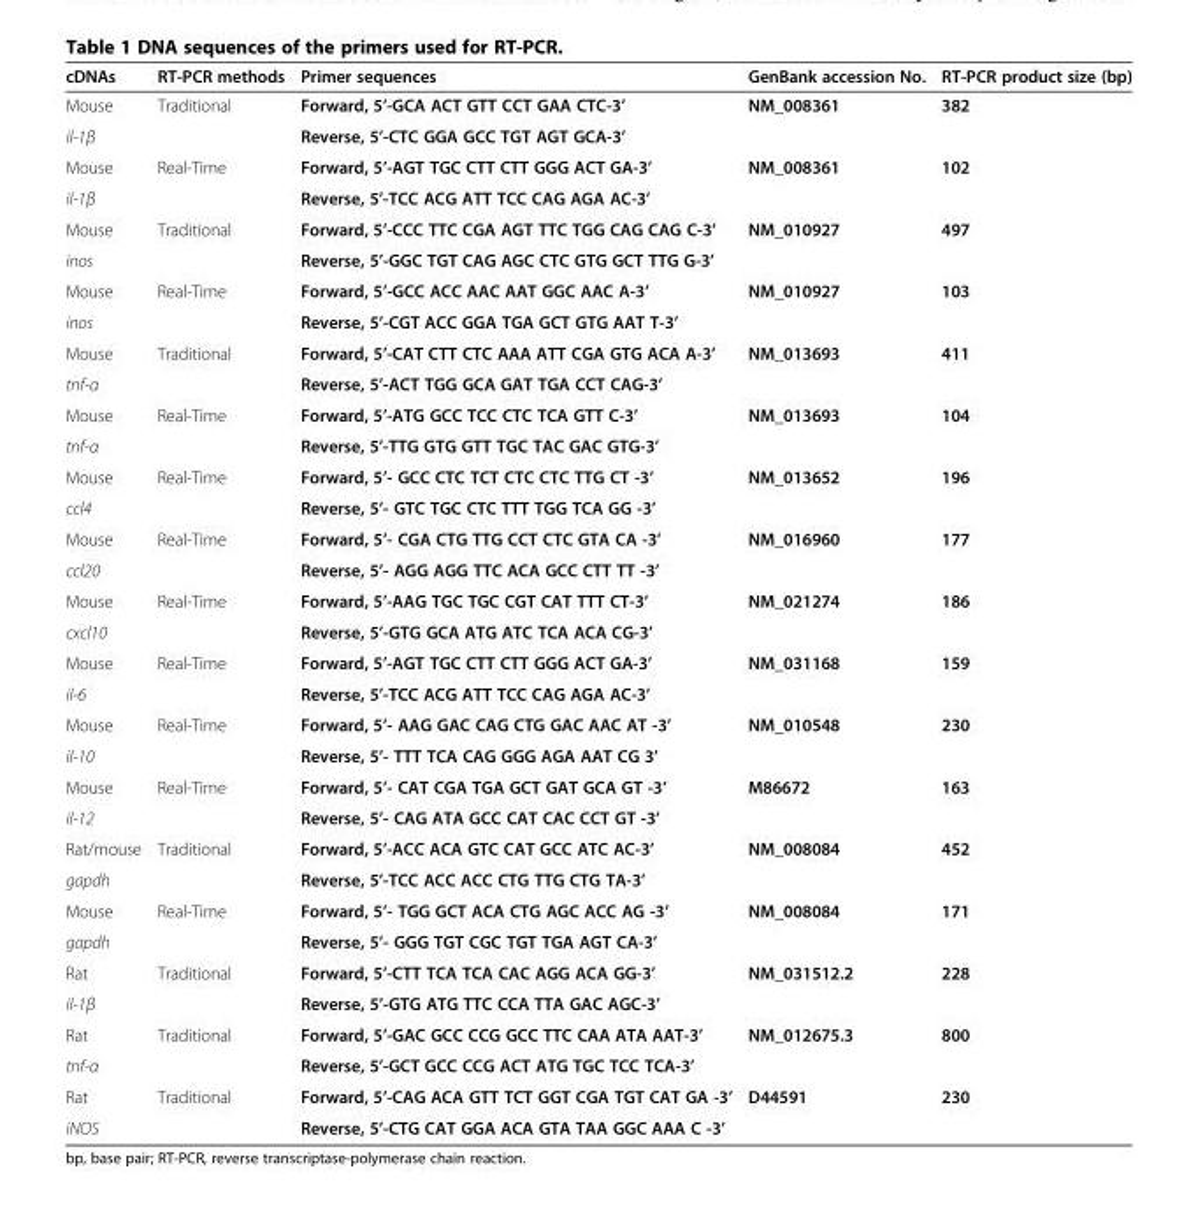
<table><thead><tr><td>cDNAs</td><td>RT-PCR methods</td><td>Primer sequences</td><td>GenBank accession No.</td><td>RT-PCR product size (bp)</td></tr></thead><tbody><tr><td>Mouse</td><td>Traditional</td><td>Forward, 5’-GCA ACT GTT CCT GAA CTC-3’</td><td>NM_008361</td><td>382</td></tr><tr><td>il-1β</td><td></td><td>Reverse, 5’-CTC GGA GCC TGT AGT GCA-3’</td><td></td><td></td></tr><tr><td>Mouse</td><td>Real-Time</td><td>Forward, 5’-AGT TGC CTT CTT GGG ACT GA-3’</td><td>NM_008361</td><td>102</td></tr><tr><td>il-1β</td><td></td><td>Reverse, 5’-TCC ACG ATT TCC CAG AGA AC-3’</td><td></td><td></td></tr><tr><td>Mouse</td><td>Traditional</td><td>Forward, 5’-CCC TTC CGA AGT TTC TGG CAG CAG C-3’</td><td>NM_010927</td><td>497</td></tr><tr><td>inos</td><td></td><td>Reverse, 5’-GGC TGT CAG AGC CTC GTG GCT TTG G-3’</td><td></td><td></td></tr><tr><td>Mouse</td><td>Real-Time</td><td>Forward, 5’-GCC ACC AAC AAT GGC AAC A-3’</td><td>NM_010927</td><td>103</td></tr><tr><td>inos</td><td></td><td>Reverse, 5’-CGT ACC GGA TGA GCT GTG AAT T-3’</td><td></td><td></td></tr><tr><td>Mouse</td><td>Traditional</td><td>Forward, 5’-CAT CTT CTC AAA ATT CGA GTG ACA A-3’</td><td>NM_013693</td><td>411</td></tr><tr><td>tnf-α</td><td></td><td>Reverse, 5’-ACT TGG GCA GAT TGA CCT CAG-3’</td><td></td><td></td></tr><tr><td>Mouse</td><td>Real-Time</td><td>Forward, 5’-ATG GCC TCC CTC TCA GTT C-3’</td><td>NM_013693</td><td>104</td></tr><tr><td>tnf-α</td><td></td><td>Reverse, 5’-TTG GTG GTT TGC TAC GAC GTG-3’</td><td></td><td></td></tr><tr><td>Mouse</td><td>Real-Time</td><td>Forward, 5’- GCC CTC TCT CTC CTC TTG CT -3’</td><td>NM_013652</td><td>196</td></tr><tr><td>ccl4</td><td></td><td>Reverse, 5’- GTC TGC CTC TTT TGG TCA GG -3’</td><td></td><td></td></tr><tr><td>Mouse</td><td>Real-Time</td><td>Forward, 5’- CGA CTG TTG CCT CTC GTA CA -3’</td><td>NM_016960</td><td>177</td></tr><tr><td>ccl20</td><td></td><td>Reverse, 5’- AGG AGG TTC ACA GCC CTT TT -3’</td><td></td><td></td></tr><tr><td>Mouse</td><td>Real-Time</td><td>Forward, 5’-AAG TGC TGC CGT CAT TTT CT-3’</td><td>NM_021274</td><td>186</td></tr><tr><td>cxcl10</td><td></td><td>Reverse, 5’-GTG GCA ATG ATC TCA ACA CG-3’</td><td></td><td></td></tr><tr><td>Mouse</td><td>Real-Time</td><td>Forward, 5’-AGT TGC CTT CTT GGG ACT GA-3’</td><td>NM_031168</td><td>159</td></tr><tr><td>il-6</td><td></td><td>Reverse, 5’-TCC ACG ATT TCC CAG AGA AC-3’</td><td></td><td></td></tr><tr><td>Mouse</td><td>Real-Time</td><td>Forward, 5’- AAG GAC CAG CTG GAC AAC AT -3’</td><td>NM_010548</td><td>230</td></tr><tr><td>il-10</td><td></td><td>Reverse, 5’- TTT TCA CAG GGG AGA AAT CG 3’</td><td></td><td></td></tr><tr><td>Mouse</td><td>Real-Time</td><td>Forward, 5’- CAT CGA TGA GCT GAT GCA GT -3’</td><td>M86672</td><td>163</td></tr><tr><td>il-12</td><td></td><td>Reverse, 5’- CAG ATA GCC CAT CAC CCT GT -3’</td><td></td><td></td></tr><tr><td>Rat/mouse</td><td>Traditional</td><td>Forward, 5’-ACC ACA GTC CAT GCC ATC AC-3’</td><td>NM_008084</td><td>452</td></tr><tr><td>gapdh</td><td></td><td>Reverse, 5’-TCC ACC ACC CTG TTG CTG TA-3’</td><td></td><td></td></tr><tr><td>Mouse</td><td>Real-Time</td><td>Forward, 5’- TGG GCT ACA CTG AGC ACC AG -3’</td><td>NM_008084</td><td>171</td></tr><tr><td>gapdh</td><td></td><td>Reverse, 5’- GGG TGT CGC TGT TGA AGT CA-3’</td><td></td><td></td></tr><tr><td>Rat</td><td>Traditional</td><td>Forward, 5’-CTT TCA TCA CAC AGG ACA GG-3’</td><td>NM_031512.2</td><td>228</td></tr><tr><td>il-1β</td><td></td><td>Reverse, 5’-GTG ATG TTC CCA TTA GAC AGC-3’</td><td></td><td></td></tr><tr><td>Rat</td><td>Traditional</td><td>Forward, 5’-GAC GCC CCG GCC TTC CAA ATA AAT-3’</td><td>NM_012675.3</td><td>800</td></tr><tr><td>tnf-α</td><td></td><td>Reverse, 5’-GCT GCC CCG ACT ATG TGC TCC TCA-3’</td><td></td><td></td></tr><tr><td>Rat</td><td>Traditional</td><td>Forward, 5’-CAG ACA GTT TCT GGT CGA TGT CAT GA -3’</td><td>D44591</td><td>230</td></tr><tr><td>iNOS</td><td></td><td>Reverse, 5’-CTG CAT GGA ACA GTA TAA GGC AAA C -3’</td><td></td><td></td></tr></tbody></table>